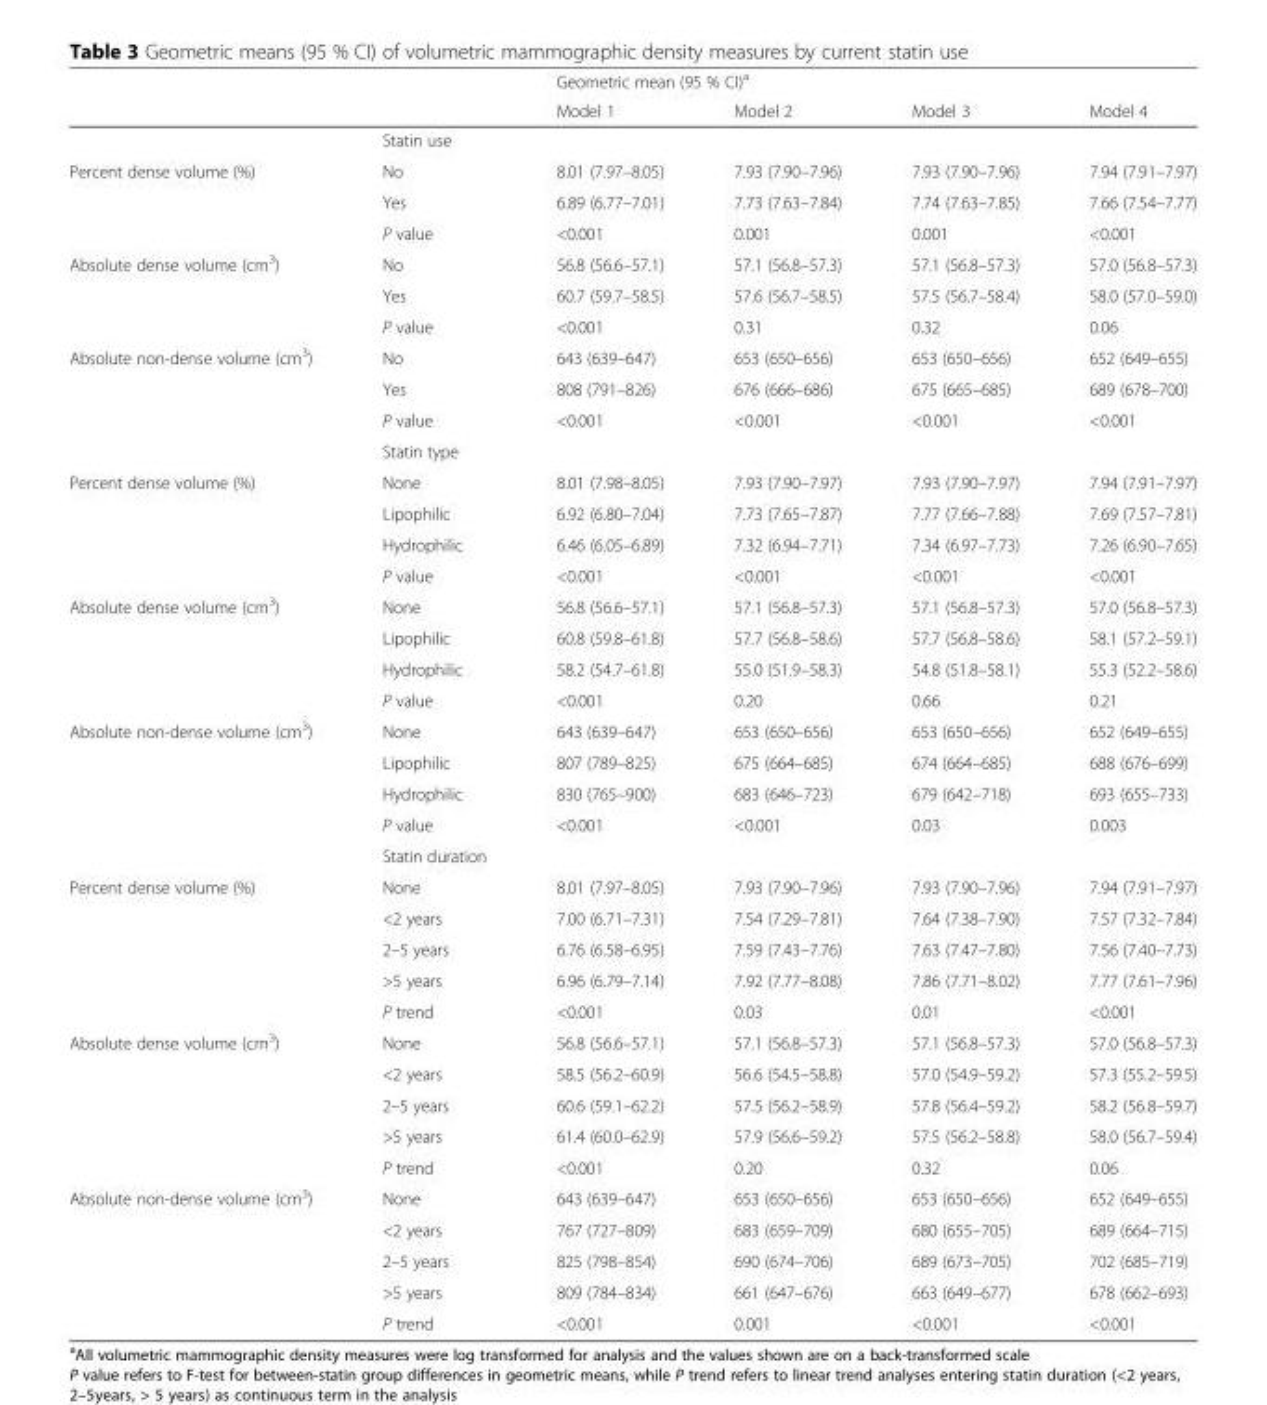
<table><thead><tr><td rowspan="2"></td><td rowspan="2"></td><td colspan="4">Geometric mean (95 % CI)<sup>a</sup></td></tr><tr><td>Model 1</td><td>Model 2</td><td>Model 3</td><td>Model 4</td></tr></thead><tbody><tr><td></td><td>Statin use</td><td></td><td></td><td></td><td></td></tr><tr><td rowspan="3">Percent dense volume (%)</td><td>No</td><td>8.01 (7.97–8.05)</td><td>7.93 (7.90–7.96)</td><td>7.93 (7.90–7.96)</td><td>7.94 (7.91–7.97)</td></tr><tr><td>Yes</td><td>6.89 (6.77–7.01)</td><td>7.73 (7.63–7.84)</td><td>7.74 (7.63–7.85)</td><td>7.66 (7.54–7.77)</td></tr><tr><td>P value</td><td>&lt;0.001</td><td>0.001</td><td>0.001</td><td>&lt;0.001</td></tr><tr><td rowspan="3">Absolute dense volume (cm<sup>3</sup>)</td><td>No</td><td>56.8 (56.6–57.1)</td><td>57.1 (56.8–57.3)</td><td>57.1 (56.8–57.3)</td><td>57.0 (56.8–57.3)</td></tr><tr><td>Yes</td><td>60.7 (59.7–58.5)</td><td>57.6 (56.7–58.5)</td><td>57.5 (56.7–58.4)</td><td>58.0 (57.0–59.0)</td></tr><tr><td>P value</td><td>&lt;0.001</td><td>0.31</td><td>0.32</td><td>0.06</td></tr><tr><td rowspan="4">Absolute non-dense volume (cm<sup>3</sup>)</td><td>No</td><td>643 (639–647)</td><td>653 (650–656)</td><td>653 (650–656)</td><td>652 (649–655)</td></tr><tr><td>Yes</td><td>808 (791–826)</td><td>676 (666–686)</td><td>675 (665–685)</td><td>689 (678–700)</td></tr><tr><td>P value</td><td>&lt;0.001</td><td>&lt;0.001</td><td>&lt;0.001</td><td>&lt;0.001</td></tr><tr><td>Statin type</td><td></td><td></td><td></td><td></td></tr><tr><td rowspan="4">Percent dense volume (%)</td><td>None</td><td>8.01 (7.98–8.05)</td><td>7.93 (7.90–7.97)</td><td>7.93 (7.90–7.97)</td><td>7.94 (7.91–7.97)</td></tr><tr><td>Lipophilic</td><td>6.92 (6.80–7.04)</td><td>7.73 (7.65–7.87)</td><td>7.77 (7.66–7.88)</td><td>7.69 (7.57–7.81)</td></tr><tr><td>Hydrophilic</td><td>6.46 (6.05–6.89)</td><td>7.32 (6.94–7.71)</td><td>7.34 (6.97–7.73)</td><td>7.26 (6.90–7.65)</td></tr><tr><td>P value</td><td>&lt;0.001</td><td>&lt;0.001</td><td>&lt;0.001</td><td>&lt;0.001</td></tr><tr><td rowspan="4">Absolute dense volume (cm<sup>3</sup>)</td><td>None</td><td>56.8 (56.6–57.1)</td><td>57.1 (56.8–57.3)</td><td>57.1 (56.8–57.3)</td><td>57.0 (56.8–57.3)</td></tr><tr><td>Lipophilic</td><td>60.8 (59.8–61.8)</td><td>57.7 (56.8–58.6)</td><td>57.7 (56.8–58.6)</td><td>58.1 (57.2–59.1)</td></tr><tr><td>Hydrophilic</td><td>58.2 (54.7–61.8)</td><td>55.0 (51.9–58.3)</td><td>54.8 (51.8–58.1)</td><td>55.3 (52.2–58.6)</td></tr><tr><td>P value</td><td>&lt;0.001</td><td>0.20</td><td>0.66</td><td>0.21</td></tr><tr><td rowspan="5">Absolute non-dense volume (cm<sup>3</sup>)</td><td>None</td><td>643 (639–647)</td><td>653 (650–656)</td><td>653 (650–656)</td><td>652 (649–655)</td></tr><tr><td>Lipophilic</td><td>807 (789–825)</td><td>675 (664–685)</td><td>674 (664–685)</td><td>688 (676–699)</td></tr><tr><td>Hydrophilic</td><td>830 (765–900)</td><td>683 (646–723)</td><td>679 (642–718)</td><td>693 (655–733)</td></tr><tr><td>P value</td><td>&lt;0.001</td><td>&lt;0.001</td><td>0.03</td><td>0.003</td></tr><tr><td>Statin duration</td><td></td><td></td><td></td><td></td></tr><tr><td rowspan="5">Percent dense volume (%)</td><td>None</td><td>8.01 (7.97–8.05)</td><td>7.93 (7.90–7.96)</td><td>7.93 (7.90–7.96)</td><td>7.94 (7.91–7.97)</td></tr><tr><td>&lt;2 years</td><td>7.00 (6.71–7.31)</td><td>7.54 (7.29–7.81)</td><td>7.64 (7.38–7.90)</td><td>7.57 (7.32–7.84)</td></tr><tr><td>2–5 years</td><td>6.76 (6.58–6.95)</td><td>7.59 (7.43–7.76)</td><td>7.63 (7.47–7.80)</td><td>7.56 (7.40–7.73)</td></tr><tr><td>&gt;5 years</td><td>6.96 (6.79–7.14)</td><td>7.92 (7.77–8.08)</td><td>7.86 (7.71–8.02)</td><td>7.77 (7.61–7.96)</td></tr><tr><td>P trend</td><td>&lt;0.001</td><td>0.03</td><td>0.01</td><td>&lt;0.001</td></tr><tr><td rowspan="5">Absolute dense volume (cm<sup>3</sup>)</td><td>None</td><td>56.8 (56.6–57.1)</td><td>57.1 (56.8–57.3)</td><td>57.1 (56.8–57.3)</td><td>57.0 (56.8–57.3)</td></tr><tr><td>&lt;2 years</td><td>58.5 (56.2–60.9)</td><td>56.6 (54.5–58.8)</td><td>57.0 (54.9–59.2)</td><td>57.3 (55.2–59.5)</td></tr><tr><td>2–5 years</td><td>60.6 (59.1–62.2)</td><td>57.5 (56.2–58.9)</td><td>57.8 (56.4–59.2)</td><td>58.2 (56.8–59.7)</td></tr><tr><td>&gt;5 years</td><td>61.4 (60.0–62.9)</td><td>57.9 (56.6–59.2)</td><td>57.5 (56.2–58.8)</td><td>58.0 (56.7–59.4)</td></tr><tr><td>P trend</td><td>&lt;0.001</td><td>0.20</td><td>0.32</td><td>0.06</td></tr><tr><td rowspan="5">Absolute non-dense volume (cm<sup>3</sup>)</td><td>None</td><td>643 (639–647)</td><td>653 (650–656)</td><td>653 (650–656)</td><td>652 (649–655)</td></tr><tr><td>&lt;2 years</td><td>767 (727–809)</td><td>683 (659–709)</td><td>680 (655–705)</td><td>689 (664–715)</td></tr><tr><td>2–5 years</td><td>825 (798–854)</td><td>690 (674–706)</td><td>689 (673–705)</td><td>702 (685–719)</td></tr><tr><td>&gt;5 years</td><td>809 (784–834)</td><td>661 (647–676)</td><td>663 (649–677)</td><td>678 (662–693)</td></tr><tr><td>P trend</td><td>&lt;0.001</td><td>0.001</td><td>&lt;0.001</td><td>&lt;0.001</td></tr></tbody></table>